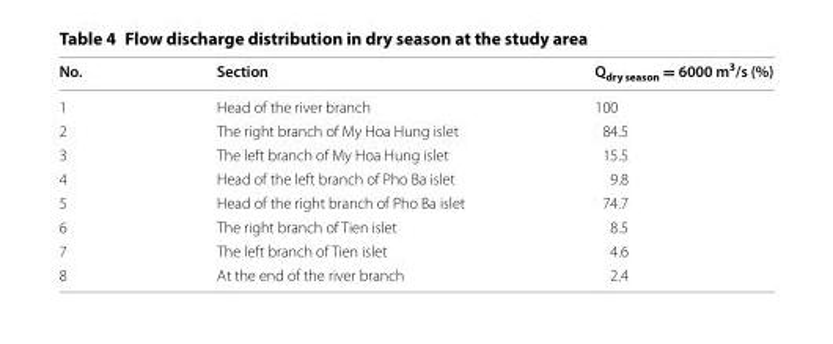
<table><thead><tr><td>No.</td><td>Section</td><td>Q<sub>dry season</sub> = 6000 m<sup>3</sup>/s (%)</td></tr></thead><tbody><tr><td>1</td><td>Head of the river branch</td><td>100</td></tr><tr><td>2</td><td>The right branch of My Hoa Hung islet</td><td>84.5</td></tr><tr><td>3</td><td>The left branch of My Hoa Hung islet</td><td>15.5</td></tr><tr><td>4</td><td>Head of the left branch of Pho Ba islet</td><td>9.8</td></tr><tr><td>5</td><td>Head of the right branch of Pho Ba islet</td><td>74.7</td></tr><tr><td>6</td><td>The right branch of Tien islet</td><td>8.5</td></tr><tr><td>7</td><td>The left branch of Tien islet</td><td>4.6</td></tr><tr><td>8</td><td>At the end of the river branch</td><td>2.4</td></tr></tbody></table>